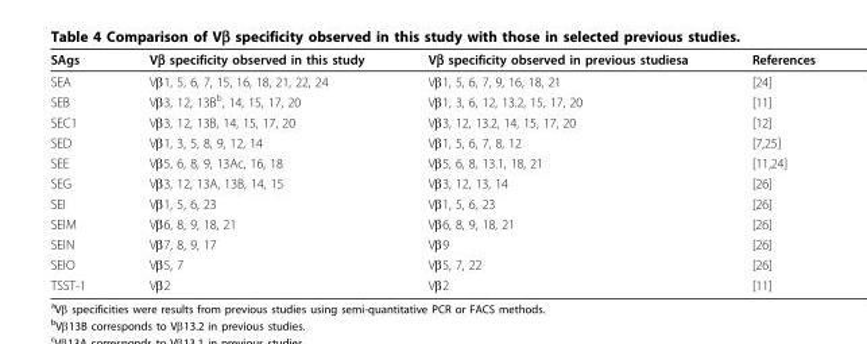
<table><thead><tr><td>SAgs</td><td>Vβ specificity observed in this study</td><td>Vβ specificity observed in previous studiesa</td><td>References</td></tr></thead><tbody><tr><td>SEA</td><td>Vβ1, 5, 6, 7, 15, 16, 18, 21, 22, 24</td><td>Vβ1, 5, 6, 7, 9, 16, 18, 21</td><td>[24]</td></tr><tr><td>SEB</td><td>Vβ3, 12, 13B<sup>b</sup>, 14, 15, 17, 20</td><td>Vβ1, 3, 6, 12, 13.2, 15, 17, 20</td><td>[11]</td></tr><tr><td>SEC1</td><td>Vβ3, 12, 13B, 14, 15, 17, 20</td><td>Vβ3, 12, 13.2, 14, 15, 17, 20</td><td>[12]</td></tr><tr><td>SED</td><td>Vβ1, 3, 5, 8, 9, 12, 14</td><td>Vβ1, 5, 6, 7, 8, 12</td><td>[7,25]</td></tr><tr><td>SEE</td><td>Vβ5, 6, 8, 9, 13Ac, 16, 18</td><td>Vβ5, 6, 8, 13.1, 18, 21</td><td>[11,24]</td></tr><tr><td>SEG</td><td>Vβ3, 12, 13A, 13B, 14, 15</td><td>Vβ3, 12, 13, 14</td><td>[26]</td></tr><tr><td>SEI</td><td>Vβ1, 5, 6, 23</td><td>Vβ1, 5, 6, 23</td><td>[26]</td></tr><tr><td>SElM</td><td>Vβ6, 8, 9, 18, 21</td><td>Vβ6, 8, 9, 18, 21</td><td>[26]</td></tr><tr><td>SElN</td><td>Vβ7, 8, 9, 17</td><td>Vβ9</td><td>[26]</td></tr><tr><td>SElO</td><td>Vβ5, 7</td><td>Vβ5, 7, 22</td><td>[26]</td></tr><tr><td>TSST-1</td><td>Vβ2</td><td>Vβ2</td><td>[11]</td></tr></tbody></table>